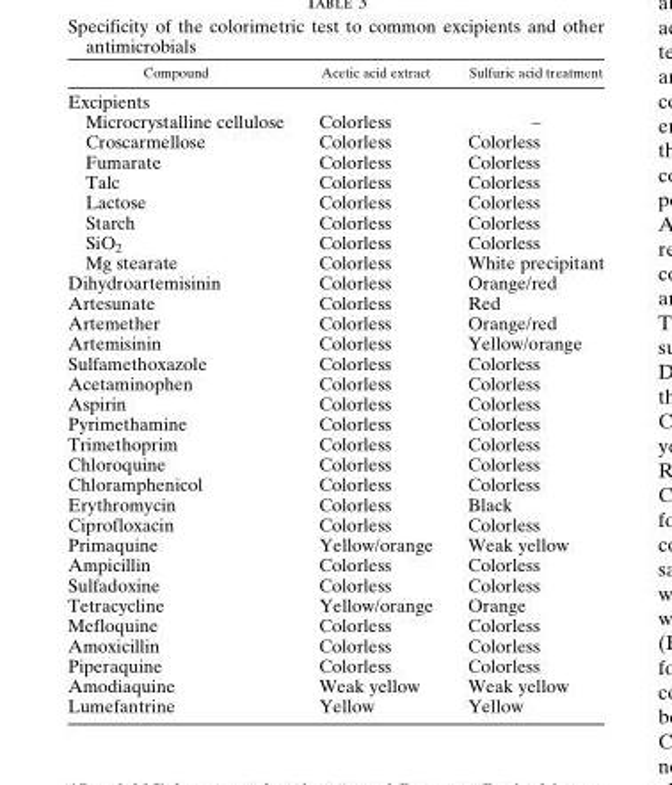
<table><thead><tr><td>Compound</td><td>Acetic acid extract</td><td>Sulfuric acid treatment</td></tr></thead><tbody><tr><td colspan="3">Excipients</td></tr><tr><td>Microcrystalline cellulose</td><td>Colorless</td><td>−</td></tr><tr><td>Croscarmellose</td><td>Colorless</td><td>Colorless</td></tr><tr><td>Fumarate</td><td>Colorless</td><td>Colorless</td></tr><tr><td>Talc</td><td>Colorless</td><td>Colorless</td></tr><tr><td>Lactose</td><td>Colorless</td><td>Colorless</td></tr><tr><td>Starch</td><td>Colorless</td><td>Colorless</td></tr><tr><td>SiO<sub>2</sub></td><td>Colorless</td><td>Colorless</td></tr><tr><td>Mg stearate</td><td>Colorless</td><td>White precipitant</td></tr><tr><td>Dihydroartemisinin</td><td>Colorless</td><td>Orange/red</td></tr><tr><td>Artesunate</td><td>Colorless</td><td>Red</td></tr><tr><td>Artemether</td><td>Colorless</td><td>Orange/red</td></tr><tr><td>Artemisinin</td><td>Colorless</td><td>Yellow/orange</td></tr><tr><td>Sulfamethoxazole</td><td>Colorless</td><td>Colorless</td></tr><tr><td>Acetaminophen</td><td>Colorless</td><td>Colorless</td></tr><tr><td>Aspirin</td><td>Colorless</td><td>Colorless</td></tr><tr><td>Pyrimethamine</td><td>Colorless</td><td>Colorless</td></tr><tr><td>Trimethoprim</td><td>Colorless</td><td>Colorless</td></tr><tr><td>Chloroquine</td><td>Colorless</td><td>Colorless</td></tr><tr><td>Chloramphenicol</td><td>Colorless</td><td>Colorless</td></tr><tr><td>Erythromycin</td><td>Colorless</td><td>Black</td></tr><tr><td>Ciprofloxacin</td><td>Colorless</td><td>Colorless</td></tr><tr><td>Primaquine</td><td>Yellow/orange</td><td>Weak yellow</td></tr><tr><td>Ampicillin</td><td>Colorless</td><td>Colorless</td></tr><tr><td>Sulfadoxine</td><td>Colorless</td><td>Colorless</td></tr><tr><td>Tetracycline</td><td>Yellow/orange</td><td>Orange</td></tr><tr><td>Mefloquine</td><td>Colorless</td><td>Colorless</td></tr><tr><td>Amoxicillin</td><td>Colorless</td><td>Colorless</td></tr><tr><td>Piperaquine</td><td>Colorless</td><td>Colorless</td></tr><tr><td>Amodiaquine</td><td>Weak yellow</td><td>Weak yellow</td></tr><tr><td>Lumefantrine</td><td>Yellow</td><td>Yellow</td></tr></tbody></table>